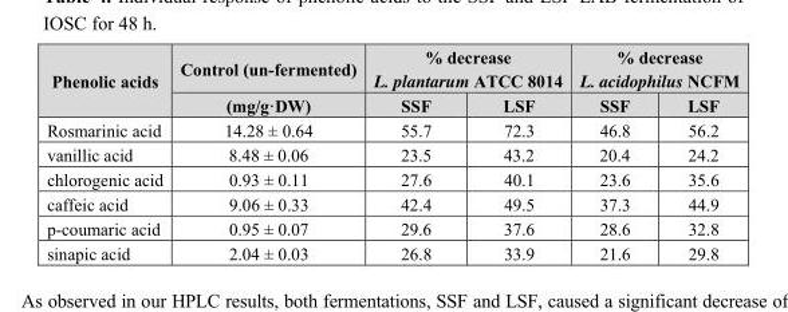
<table><thead><tr><td rowspan="2">Phenolic acids</td><td rowspan="2">Control (un-fermented) (mg/g·DW)</td><td colspan="2">% decrease L. plantarum ATCC 8014</td><td colspan="2">% decrease L. acidophilus NCFM</td></tr><tr><td>SSF</td><td>LSF</td><td>SSF</td><td>LSF</td></tr></thead><tbody><tr><td>Rosmarinic acid</td><td>14.28 ± 0.64</td><td>55.7</td><td>72.3</td><td>46.8</td><td>56.2</td></tr><tr><td>vanillic acid</td><td>8.48 ± 0.06</td><td>23.5</td><td>43.2</td><td>20.4</td><td>24.2</td></tr><tr><td>chlorogenic acid</td><td>0.93 ± 0.11</td><td>27.6</td><td>40.1</td><td>23.6</td><td>35.6</td></tr><tr><td>caffeic acid</td><td>9.06 ± 0.33</td><td>42.4</td><td>49.5</td><td>37.3</td><td>44.9</td></tr><tr><td>p-coumaric acid</td><td>0.95 ± 0.07</td><td>29.6</td><td>37.6</td><td>28.6</td><td>32.8</td></tr><tr><td>sinapic acid</td><td>2.04 ± 0.03</td><td>26.8</td><td>33.9</td><td>21.6</td><td>29.8</td></tr></tbody></table>